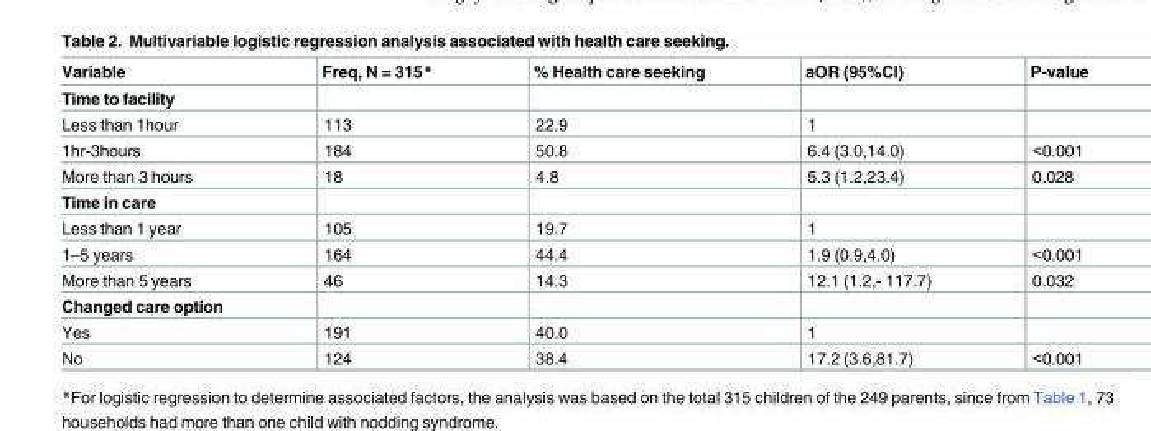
<table><thead><tr><td>Variable</td><td>Freq, N = 315*</td><td>% Health care seeking</td><td>aOR (95%CI)</td><td>P-value</td></tr></thead><tbody><tr><td colspan="5">Time to facility</td></tr><tr><td>Less than 1hour</td><td>113</td><td>22.9</td><td>1</td><td></td></tr><tr><td>1hr-3hours</td><td>184</td><td>50.8</td><td>6.4 (3.0,14.0)</td><td>&lt;0.001</td></tr><tr><td>More than 3 hours</td><td>18</td><td>4.8</td><td>5.3 (1.2,23.4)</td><td>0.028</td></tr><tr><td colspan="5">Time in care</td></tr><tr><td>Less than 1 year</td><td>105</td><td>19.7</td><td>1</td><td></td></tr><tr><td>1–5 years</td><td>164</td><td>44.4</td><td>1.9 (0.9,4.0)</td><td>&lt;0.001</td></tr><tr><td>More than 5 years</td><td>46</td><td>14.3</td><td>12.1 (1.2,- 117.7)</td><td>0.032</td></tr><tr><td colspan="5">Changed care option</td></tr><tr><td>Yes</td><td>191</td><td>40.0</td><td>1</td><td></td></tr><tr><td>No</td><td>124</td><td>38.4</td><td>17.2 (3.6,81.7)</td><td>&lt;0.001</td></tr></tbody></table>